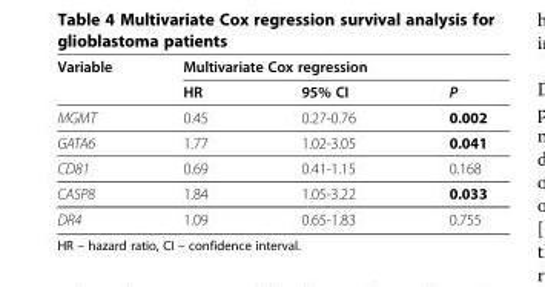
<table><thead><tr><td rowspan="2">Variable</td><td colspan="3">Multivariate Cox regression</td></tr><tr><td>HR</td><td>95% CI</td><td>P</td></tr></thead><tbody><tr><td>MGMT</td><td>0.45</td><td>0.27-0.76</td><td>0.002</td></tr><tr><td>GATA6</td><td>1.77</td><td>1.02-3.05</td><td>0.041</td></tr><tr><td>CD81</td><td>0.69</td><td>0.41-1.15</td><td>0.168</td></tr><tr><td>CASP8</td><td>1.84</td><td>1.05-3.22</td><td>0.033</td></tr><tr><td>DR4</td><td>1.09</td><td>0.65-1.83</td><td>0.755</td></tr></tbody></table>